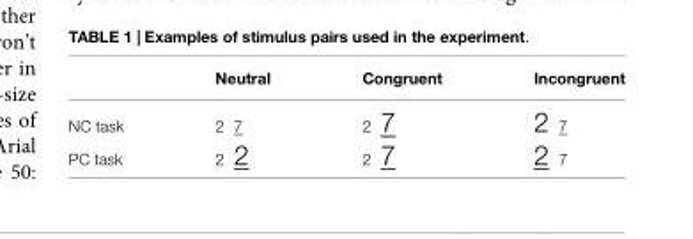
<table><thead><tr><td></td><td>Neutral</td><td>Congruent</td><td>Incongruent</td></tr></thead><tbody><tr><td>NC task</td><td>2 7</td><td>2 7</td><td>2 7</td></tr><tr><td>PC task</td><td>2 2</td><td>2 7</td><td>2 7</td></tr></tbody></table>